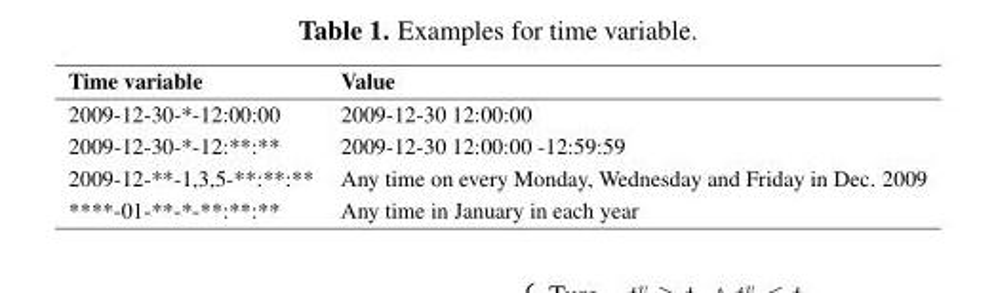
<table><thead><tr><td>Time variable</td><td>Value</td></tr></thead><tbody><tr><td>2009-12-30-*-12:00:00</td><td>2009-12-30 12:00:00</td></tr><tr><td>2009-12-30-*-12:**:**</td><td>2009-12-30 12:00:00 -12:59:59</td></tr><tr><td>2009-12-**-1,3,5-**:**:**</td><td>Any time on every Monday, Wednesday and Friday in Dec. 2009</td></tr><tr><td>****-01-**-*-**:**:**</td><td>Any time in January in each year</td></tr></tbody></table>